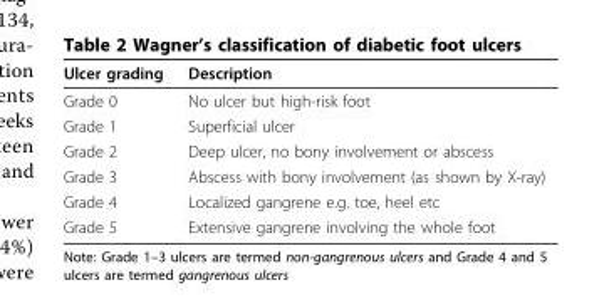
<table><thead><tr><td>Ulcer grading</td><td>Description</td></tr></thead><tbody><tr><td>Grade 0</td><td>No ulcer but high-risk foot</td></tr><tr><td>Grade 1</td><td>Superficial ulcer</td></tr><tr><td>Grade 2</td><td>Deep ulcer, no bony involvement or abscess</td></tr><tr><td>Grade 3</td><td>Abscess with bony involvement (as shown by X-ray)</td></tr><tr><td>Grade 4</td><td>Localized gangrene e.g. toe, heel etc</td></tr><tr><td>Grade 5</td><td>Extensive gangrene involving the whole foot</td></tr></tbody></table>